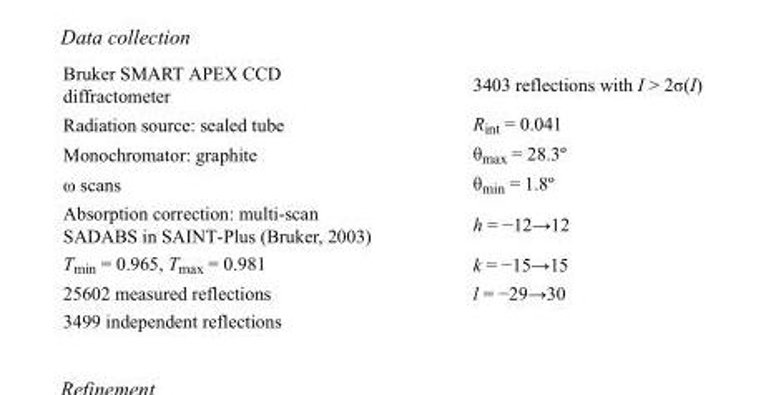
<table><tbody><tr><td>Bruker SMART APEX CCD diffractometer</td><td>3403 reflections with I &gt; 2σ(I)</td></tr><tr><td>Radiation source: sealed tube</td><td>R<sub>int</sub> = 0.041</td></tr><tr><td>Monochromator: graphite</td><td>θ<sub>max</sub> = 28.3º</td></tr><tr><td>ω scans</td><td>θ<sub>min</sub> = 1.8º</td></tr><tr><td>Absorption correction: multi-scan SADABS in SAINT-Plus (Bruker, 2003)</td><td>h = −12→12</td></tr><tr><td>T<sub>min</sub> = 0.965, T<sub>max</sub> = 0.981</td><td>k = −15→15</td></tr><tr><td>25602 measured reflections</td><td>l = −29→30</td></tr><tr><td>3499 independent reflections</td><td></td></tr></tbody></table>